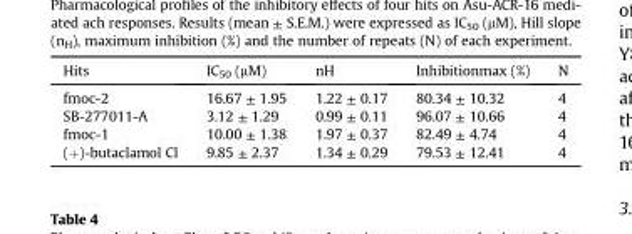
<table><thead><tr><td>Hits</td><td>IC<sub>50</sub> (μM)</td><td>nH</td><td>Inhibitionmax (%)</td><td>N</td></tr></thead><tbody><tr><td>fmoc-2</td><td>16.67 ± 1.95</td><td>1.22 ± 0.17</td><td>80.34 ± 10.32</td><td>4</td></tr><tr><td>SB-277011-A</td><td>3.12 ± 1.29</td><td>0.99 ± 0.11</td><td>96.07 ± 10.66</td><td>4</td></tr><tr><td>fmoc-1</td><td>10.00 ± 1.38</td><td>1.97 ± 0.37</td><td>82.49 ± 4.74</td><td>4</td></tr><tr><td>(+)-butaclamol Cl</td><td>9.85 ± 2.37</td><td>1.34 ± 0.29</td><td>79.53 ± 12.41</td><td>4</td></tr></tbody></table>